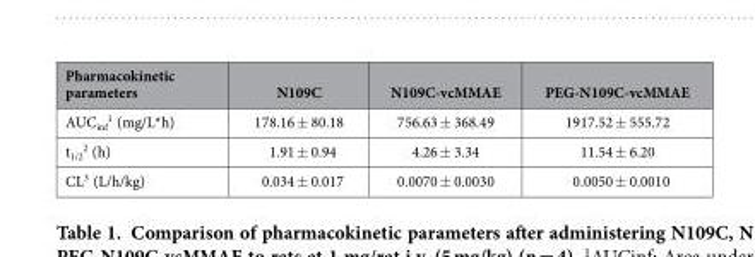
<table><thead><tr><td>Pharmacokinetic parameters</td><td>N109C</td><td>N109C-vcMMAE</td><td>PEG-N109C-vcMMAE</td></tr></thead><tbody><tr><td>AUC<sub>inf</sub> <sup>1</sup> (mg/L*h)</td><td>178.16 ± 80.18</td><td>756.63 ± 368.49</td><td>1917.52 ± 555.72</td></tr><tr><td>t<sub>1/2</sub> <sup>2</sup> (h)</td><td>1.91 ± 0.94</td><td>4.26 ± 3.34</td><td>11.54 ± 6.20</td></tr><tr><td>CL<sup>3</sup> (L/h/kg)</td><td>0.034 ± 0.017</td><td>0.0070 ± 0.0030</td><td>0.0050 ± 0.0010</td></tr></tbody></table>